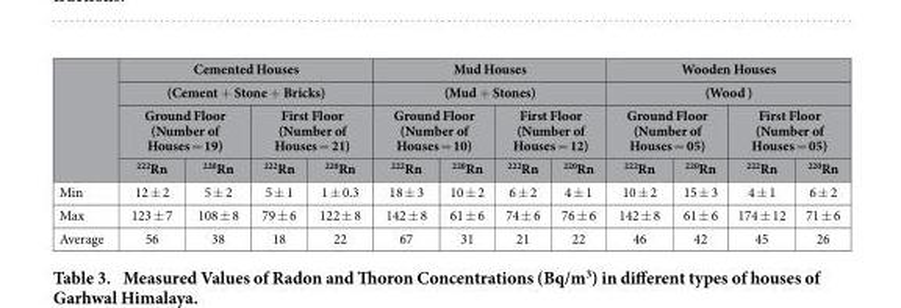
<table><thead><tr><td rowspan="4"></td><td rowspan="2" colspan="4">Cemented Houses (Cement + Stone + Bricks)</td><td rowspan="2" colspan="4">Mud Houses (Mud + Stones)</td><td rowspan="2" colspan="4">Wooden Houses (Wood )</td></tr><tr></tr><tr><td colspan="2">Ground Floor (Number of Houses = 19)</td><td colspan="2">First Floor (Number of Houses = 21)</td><td colspan="2">Ground Floor (Number of Houses = 10)</td><td colspan="2">First Floor (Number of Houses = 12)</td><td colspan="2">Ground Floor (Number of Houses = 05)</td><td colspan="2">First Floor (Number of Houses = 05)</td></tr><tr><td><sup>222</sup>Rn</td><td><sup>220</sup>Rn</td><td><sup>222</sup>Rn</td><td><sup>220</sup>Rn</td><td><sup>222</sup>Rn</td><td><sup>220</sup>Rn</td><td><sup>222</sup>Rn</td><td><sup>220</sup>Rn</td><td><sup>222</sup>Rn</td><td><sup>220</sup>Rn</td><td><sup>222</sup>Rn</td><td><sup>220</sup>Rn</td></tr></thead><tbody><tr><td>Min</td><td>12 ± 2</td><td>5 ± 2</td><td>5 ± 1</td><td>1 ± 0.3</td><td>18 ± 3</td><td>10 ± 2</td><td>6 ± 2</td><td>4 ± 1</td><td>10 ± 2</td><td>15 ± 3</td><td>4 ± 1</td><td>6 ± 2</td></tr><tr><td>Max</td><td>123 ± 7</td><td>108 ± 8</td><td>79 ± 6</td><td>122 ± 8</td><td>142 ± 8</td><td>61 ± 6</td><td>74 ± 6</td><td>76 ± 6</td><td>142 ± 8</td><td>61 ± 6</td><td>174 ± 12</td><td>71 ± 6</td></tr><tr><td>Average</td><td>56</td><td>38</td><td>18</td><td>22</td><td>67</td><td>31</td><td>21</td><td>22</td><td>46</td><td>42</td><td>45</td><td>26</td></tr></tbody></table>